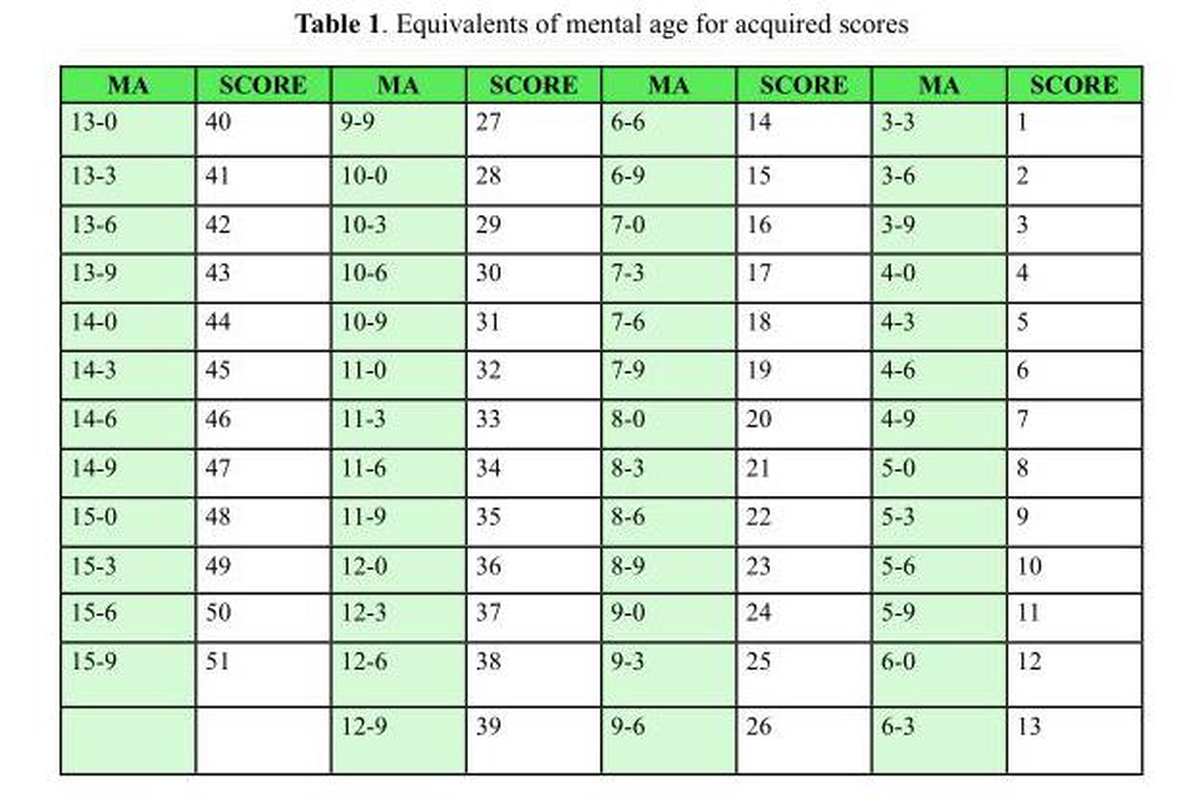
<table><thead><tr><td>MA</td><td>SCORE</td><td>MA</td><td>SCORE</td><td>MA</td><td>SCORE</td><td>MA</td><td>SCORE</td></tr></thead><tbody><tr><td>13-0</td><td>40</td><td>9-9</td><td>27</td><td>6-6</td><td>14</td><td>3-3</td><td>1</td></tr><tr><td>13-3</td><td>41</td><td>10-0</td><td>28</td><td>6-9</td><td>15</td><td>3-6</td><td>2</td></tr><tr><td>13-6</td><td>42</td><td>10-3</td><td>29</td><td>7-0</td><td>16</td><td>3-9</td><td>3</td></tr><tr><td>13-9</td><td>43</td><td>10-6</td><td>30</td><td>7-3</td><td>17</td><td>4-0</td><td>4</td></tr><tr><td>14-0</td><td>44</td><td>10-9</td><td>31</td><td>7-6</td><td>18</td><td>4-3</td><td>5</td></tr><tr><td>14-3</td><td>45</td><td>11-0</td><td>32</td><td>7-9</td><td>19</td><td>4-6</td><td>6</td></tr><tr><td>14-6</td><td>46</td><td>11-3</td><td>33</td><td>8-0</td><td>20</td><td>4-9</td><td>7</td></tr><tr><td>14-9</td><td>47</td><td>11-6</td><td>34</td><td>8-3</td><td>21</td><td>5-0</td><td>8</td></tr><tr><td>15-0</td><td>48</td><td>11-9</td><td>35</td><td>8-6</td><td>22</td><td>5-3</td><td>9</td></tr><tr><td>15-3</td><td>49</td><td>12-0</td><td>36</td><td>8-9</td><td>23</td><td>5-6</td><td>10</td></tr><tr><td>15-6</td><td>50</td><td>12-3</td><td>37</td><td>9-0</td><td>24</td><td>5-9</td><td>11</td></tr><tr><td rowspan="2">15-9</td><td>51</td><td>12-6</td><td>38</td><td>9-3</td><td>25</td><td>6-0</td><td>12</td></tr><tr><td></td><td>12-9</td><td>39</td><td>9-6</td><td>26</td><td>6-3</td><td>13</td></tr></tbody></table>